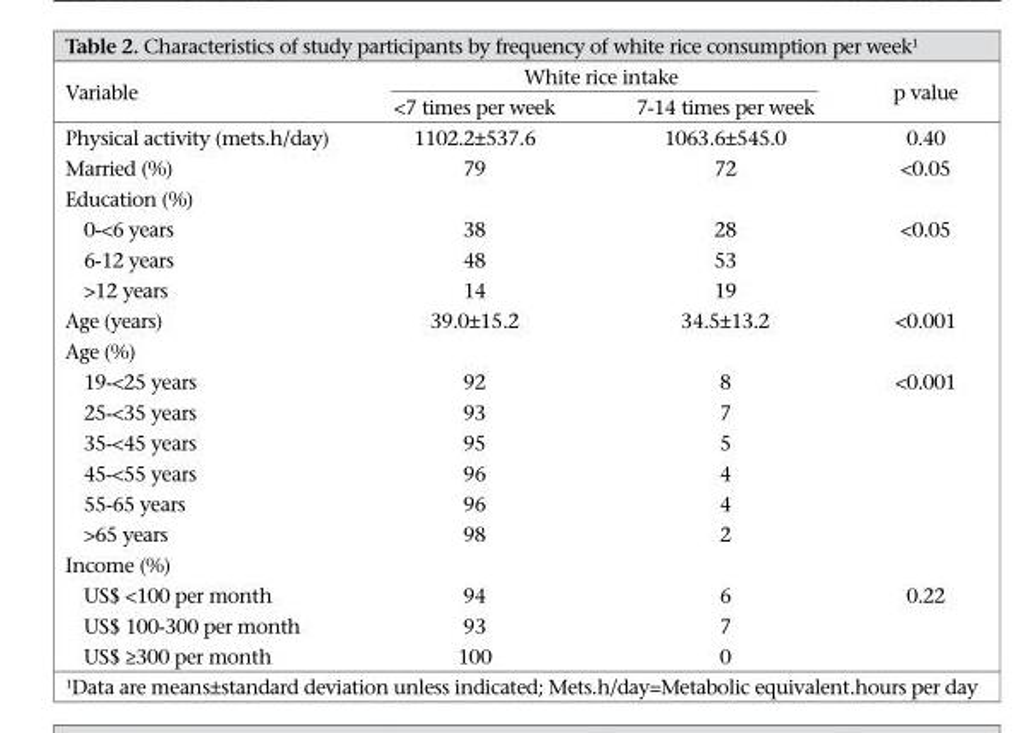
<table><thead><tr><td rowspan="2">Variable</td><td colspan="2">White rice intake</td><td rowspan="2">p value</td></tr><tr><td>&lt;7 times per week</td><td>7-14 times per week</td></tr></thead><tbody><tr><td>Physical activity (mets.h/day)</td><td>1102.2±537.6</td><td>1063.6±545.0</td><td>0.40</td></tr><tr><td>Married (%)</td><td>79</td><td>72</td><td>&lt;0.05</td></tr><tr><td colspan="4">Education (%)</td></tr><tr><td>0-&lt;6 years</td><td>38</td><td>28</td><td>&lt;0.05</td></tr><tr><td>6-12 years</td><td>48</td><td>53</td><td></td></tr><tr><td>&gt;12 years</td><td>14</td><td>19</td><td></td></tr><tr><td>Age (years)</td><td>39.0±15.2</td><td>34.5±13.2</td><td>&lt;0.001</td></tr><tr><td colspan="4">Age (%)</td></tr><tr><td>19-&lt;25 years</td><td>92</td><td>8</td><td>&lt;0.001</td></tr><tr><td>25-&lt;35 years</td><td>93</td><td>7</td><td></td></tr><tr><td>35-&lt;45 years</td><td>95</td><td>5</td><td></td></tr><tr><td>45-&lt;55 years</td><td>96</td><td>4</td><td></td></tr><tr><td>55-65 years</td><td>96</td><td>4</td><td></td></tr><tr><td>&gt;65 years</td><td>98</td><td>2</td><td></td></tr><tr><td colspan="4">Income (%)</td></tr><tr><td>US$ &lt;100 per month</td><td>94</td><td>6</td><td>0.22</td></tr><tr><td>US$ 100-300 per month</td><td>93</td><td>7</td><td></td></tr><tr><td>US$ ≥300 per month</td><td>100</td><td>0</td><td></td></tr></tbody></table>